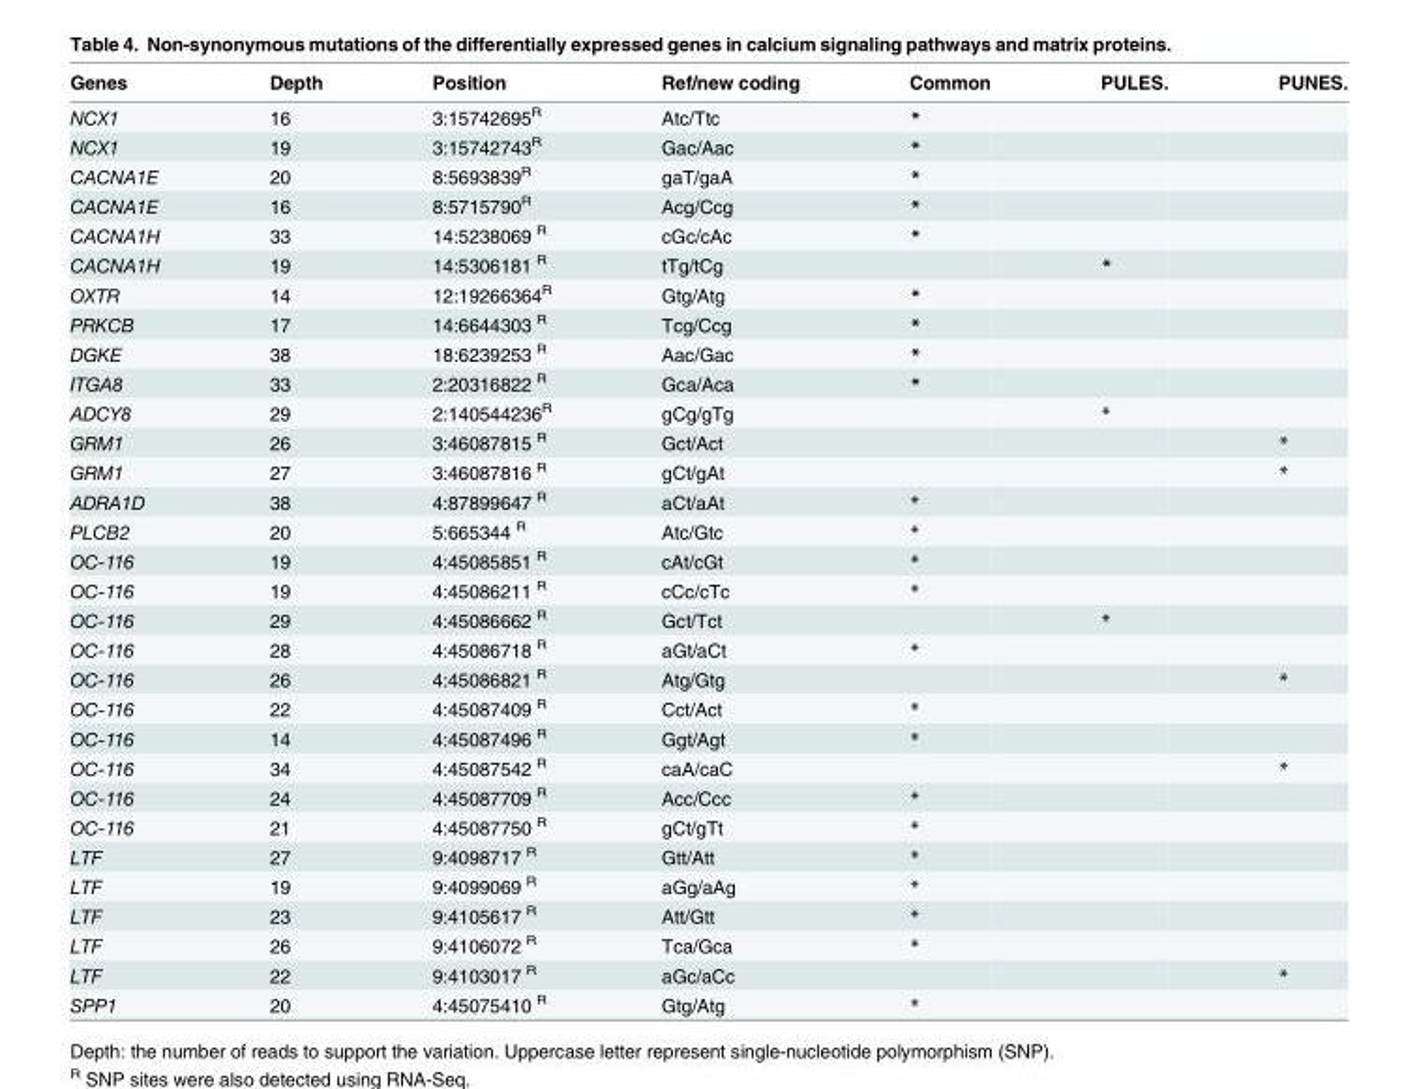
<table><thead><tr><td>Genes</td><td>Depth</td><td>Position</td><td>Ref/new coding</td><td>Common</td><td>PULES.</td><td>PUNES.</td></tr></thead><tbody><tr><td>NCX1</td><td>16</td><td>3:15742695<sup>R</sup></td><td>Atc/Ttc</td><td>*</td><td></td><td></td></tr><tr><td>NCX1</td><td>19</td><td>3:15742743<sup>R</sup></td><td>Gac/Aac</td><td>*</td><td></td><td></td></tr><tr><td>CACNA1E</td><td>20</td><td>8:5693839<sup>R</sup></td><td>gaT/gaA</td><td>*</td><td></td><td></td></tr><tr><td>CACNA1E</td><td>16</td><td>8:5715790<sup>R</sup></td><td>Acg/Ccg</td><td>*</td><td></td><td></td></tr><tr><td>CACNA1H</td><td>33</td><td>14:5238069 <sup>R</sup></td><td>cGc/cAc</td><td>*</td><td></td><td></td></tr><tr><td>CACNA1H</td><td>19</td><td>14:5306181 <sup>R</sup></td><td>tTg/tCg</td><td></td><td>*</td><td></td></tr><tr><td>OXTR</td><td>14</td><td>12:19266364<sup>R</sup></td><td>Gtg/Atg</td><td>*</td><td></td><td></td></tr><tr><td>PRKCB</td><td>17</td><td>14:6644303 <sup>R</sup></td><td>Tcg/Ccg</td><td>*</td><td></td><td></td></tr><tr><td>DGKE</td><td>38</td><td>18:6239253 <sup>R</sup></td><td>Aac/Gac</td><td>*</td><td></td><td></td></tr><tr><td>ITGA8</td><td>33</td><td>2:20316822 <sup>R</sup></td><td>Gca/Aca</td><td>*</td><td></td><td></td></tr><tr><td>ADCY8</td><td>29</td><td>2:140544236<sup>R</sup></td><td>gCg/gTg</td><td></td><td>*</td><td></td></tr><tr><td>GRM1</td><td>26</td><td>3:46087815 <sup>R</sup></td><td>Gct/Act</td><td></td><td></td><td>*</td></tr><tr><td>GRM1</td><td>27</td><td>3:46087816 <sup>R</sup></td><td>gCt/gAt</td><td></td><td></td><td>*</td></tr><tr><td>ADRA1D</td><td>38</td><td>4:87899647 <sup>R</sup></td><td>aCt/aAt</td><td>*</td><td></td><td></td></tr><tr><td>PLCB2</td><td>20</td><td>5:665344 <sup>R</sup></td><td>Atc/Gtc</td><td>*</td><td></td><td></td></tr><tr><td>OC-116</td><td>19</td><td>4:45085851 <sup>R</sup></td><td>cAt/cGt</td><td>*</td><td></td><td></td></tr><tr><td>OC-116</td><td>19</td><td>4:45086211 <sup>R</sup></td><td>cCc/cTc</td><td>*</td><td></td><td></td></tr><tr><td>OC-116</td><td>29</td><td>4:45086662 <sup>R</sup></td><td>Gct/Tct</td><td></td><td>*</td><td></td></tr><tr><td>OC-116</td><td>28</td><td>4:45086718 <sup>R</sup></td><td>aGt/aCt</td><td>*</td><td></td><td></td></tr><tr><td>OC-116</td><td>26</td><td>4:45086821 <sup>R</sup></td><td>Atg/Gtg</td><td></td><td></td><td>*</td></tr><tr><td>OC-116</td><td>22</td><td>4:45087409 <sup>R</sup></td><td>Cct/Act</td><td>*</td><td></td><td></td></tr><tr><td>OC-116</td><td>14</td><td>4:45087496 <sup>R</sup></td><td>Ggt/Agt</td><td>*</td><td></td><td></td></tr><tr><td>OC-116</td><td>34</td><td>4:45087542 <sup>R</sup></td><td>caA/caC</td><td></td><td></td><td>*</td></tr><tr><td>OC-116</td><td>24</td><td>4:45087709 <sup>R</sup></td><td>Acc/Ccc</td><td>*</td><td></td><td></td></tr><tr><td>OC-116</td><td>21</td><td>4:45087750 <sup>R</sup></td><td>gCt/gTt</td><td>*</td><td></td><td></td></tr><tr><td>LTF</td><td>27</td><td>9:4098717 <sup>R</sup></td><td>Gtt/Att</td><td>*</td><td></td><td></td></tr><tr><td>LTF</td><td>19</td><td>9:4099069 <sup>R</sup></td><td>aGg/aAg</td><td>*</td><td></td><td></td></tr><tr><td>LTF</td><td>23</td><td>9:4105617 <sup>R</sup></td><td>Att/Gtt</td><td>*</td><td></td><td></td></tr><tr><td>LTF</td><td>26</td><td>9:4106072 <sup>R</sup></td><td>Tca/Gca</td><td>*</td><td></td><td></td></tr><tr><td>LTF</td><td>22</td><td>9:4103017 <sup>R</sup></td><td>aGc/aCc</td><td></td><td></td><td>*</td></tr><tr><td>SPP1</td><td>20</td><td>4:45075410 <sup>R</sup></td><td>Gtg/Atg</td><td>*</td><td></td><td></td></tr></tbody></table>